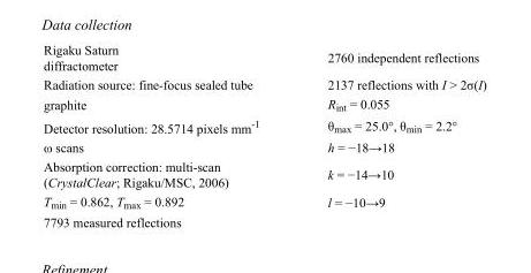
<table><tbody><tr><td>Rigaku Saturn diffractometer</td><td>2760 independent reflections</td></tr><tr><td>Radiation source: fine-focus sealed tube</td><td>2137 reflections with I &gt; 2σ(I)</td></tr><tr><td>graphite</td><td>R<sub>int</sub> = 0.055</td></tr><tr><td>Detector resolution: 28.5714 pixels mm<sup>-1</sup></td><td>θ<sub>max</sub> = 25.0°, θ<sub>min</sub> = 2.2°</td></tr><tr><td>ω scans</td><td>h = −18→18</td></tr><tr><td>Absorption correction: multi-scan (CrystalClear; Rigaku/MSC, 2006)</td><td>k = −14→10</td></tr><tr><td>T<sub>min</sub> = 0.862, T<sub>max</sub> = 0.892</td><td>l = −10→9</td></tr><tr><td>7793 measured reflections</td><td></td></tr></tbody></table>